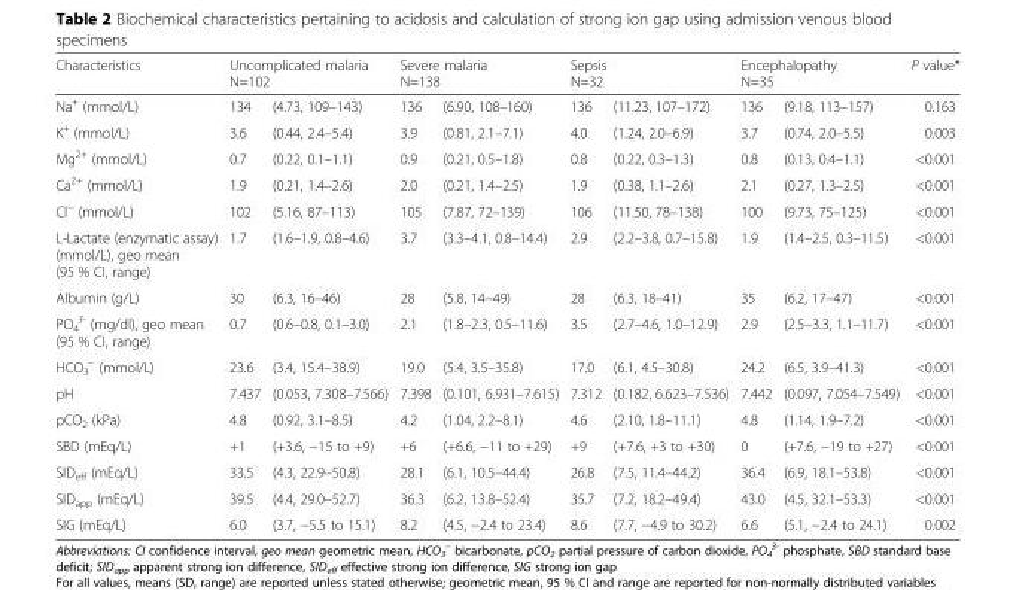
<table><thead><tr><td rowspan="2">Characteristics Na<sup>+</sup> (mmol/L)</td><td colspan="2">Uncomplicated malaria N=102</td><td colspan="2">Severe malaria N=138</td><td colspan="2">Sepsis N=32</td><td colspan="2">Encephalopathy N=35</td><td rowspan="2">P value* 0.163</td></tr><tr><td>134</td><td>(4.73, 109–143)</td><td>136</td><td>(6.90, 108–160)</td><td>136</td><td>(11.23, 107–172)</td><td>136</td><td>(9.18, 113–157)</td></tr></thead><tbody><tr><td>K<sup>+</sup> (mmol/L)</td><td>3.6</td><td>(0.44, 2.4–5.4)</td><td>3.9</td><td>(0.81, 2.1–7.1)</td><td>4.0</td><td>(1.24, 2.0–6.9)</td><td>3.7</td><td>(0.74, 2.0–5.5)</td><td>0.003</td></tr><tr><td>Mg<sup>2+</sup> (mmol/L)</td><td>0.7</td><td>(0.22, 0.1–1.1)</td><td>0.9</td><td>(0.21, 0.5–1.8)</td><td>0.8</td><td>(0.22, 0.3–1.3)</td><td>0.8</td><td>(0.13, 0.4–1.1)</td><td>&lt;0.001</td></tr><tr><td>Ca<sup>2+</sup> (mmol/L)</td><td>1.9</td><td>(0.21, 1.4–2.6)</td><td>2.0</td><td>(0.21, 1.4–2.5)</td><td>1.9</td><td>(0.38, 1.1–2.6)</td><td>2.1</td><td>(0.27, 1.3–2.5)</td><td>&lt;0.001</td></tr><tr><td>Cl<sup>−</sup> (mmol/L)</td><td>102</td><td>(5.16, 87–113)</td><td>105</td><td>(7.87, 72–139)</td><td>106</td><td>(11.50, 78–138)</td><td>100</td><td>(9.73, 75–125)</td><td>&lt;0.001</td></tr><tr><td>L-Lactate (enzymatic assay) (mmol/L), geo mean (95 % CI, range)</td><td>1.7</td><td>(1.6–1.9, 0.8–4.6)</td><td>3.7</td><td>(3.3–4.1, 0.8–14.4)</td><td>2.9</td><td>(2.2–3.8, 0.7–15.8)</td><td>1.9</td><td>(1.4–2.5, 0.3–11.5)</td><td>&lt;0.001</td></tr><tr><td>Albumin (g/L)</td><td>30</td><td>(6.3, 16–46)</td><td>28</td><td>(5.8, 14–49)</td><td>28</td><td>(6.3, 18–41)</td><td>35</td><td>(6.2, 17–47)</td><td>&lt;0.001</td></tr><tr><td>PO<sub>4</sub> <sup>3-</sup> (mg/dl), geo mean (95 % CI, range)</td><td>0.7</td><td>(0.6–0.8, 0.1–3.0)</td><td>2.1</td><td>(1.8–2.3, 0.5–11.6)</td><td>3.5</td><td>(2.7–4.6, 1.0–12.9)</td><td>2.9</td><td>(2.5–3.3, 1.1–11.7)</td><td>&lt;0.001</td></tr><tr><td>HCO<sub>3</sub> <sup>−</sup> (mmol/L)</td><td>23.6</td><td>(3.4, 15.4–38.9)</td><td>19.0</td><td>(5.4, 3.5–35.8)</td><td>17.0</td><td>(6.1, 4.5–30.8)</td><td>24.2</td><td>(6.5, 3.9–41.3)</td><td>&lt;0.001</td></tr><tr><td>pH</td><td>7.437</td><td>(0.053, 7.308–7.566)</td><td>7.398</td><td>(0.101, 6.931–7.615)</td><td>7.312</td><td>(0.182, 6.623–7.536)</td><td>7.442</td><td>(0.097, 7.054–7.549)</td><td>&lt;0.001</td></tr><tr><td>pCO<sub>2</sub> (kPa)</td><td>4.8</td><td>(0.92, 3.1–8.5)</td><td>4.2</td><td>(1.04, 2.2–8.1)</td><td>4.6</td><td>(2.10, 1.8–11.1)</td><td>4.8</td><td>(1.14, 1.9–7.2)</td><td>&lt;0.001</td></tr><tr><td>SBD (mEq/L)</td><td>+1</td><td>(+3.6, −15 to +9)</td><td>+6</td><td>(+6.6, −11 to +29)</td><td>+9</td><td>(+7.6, +3 to +30)</td><td>0</td><td>(+7.6, −19 to +27)</td><td>&lt;0.001</td></tr><tr><td>SID<sub>eff</sub> (mEq/L)</td><td>33.5</td><td>(4.3, 22.9–50.8)</td><td>28.1</td><td>(6.1, 10.5–44.4)</td><td>26.8</td><td>(7.5, 11.4–44.2)</td><td>36.4</td><td>(6.9, 18.1–53.8)</td><td>&lt;0.001</td></tr><tr><td>SID<sub>app</sub> (mEq/L)</td><td>39.5</td><td>(4.4, 29.0–52.7)</td><td>36.3</td><td>(6.2, 13.8–52.4)</td><td>35.7</td><td>(7.2, 18.2–49.4)</td><td>43.0</td><td>(4.5, 32.1–53.3)</td><td>&lt;0.001</td></tr><tr><td>SIG (mEq/L)</td><td>6.0</td><td>(3.7, −5.5 to 15.1)</td><td>8.2</td><td>(4.5, −2.4 to 23.4)</td><td>8.6</td><td>(7.7, −4.9 to 30.2)</td><td>6.6</td><td>(5.1, −2.4 to 24.1)</td><td>0.002</td></tr></tbody></table>